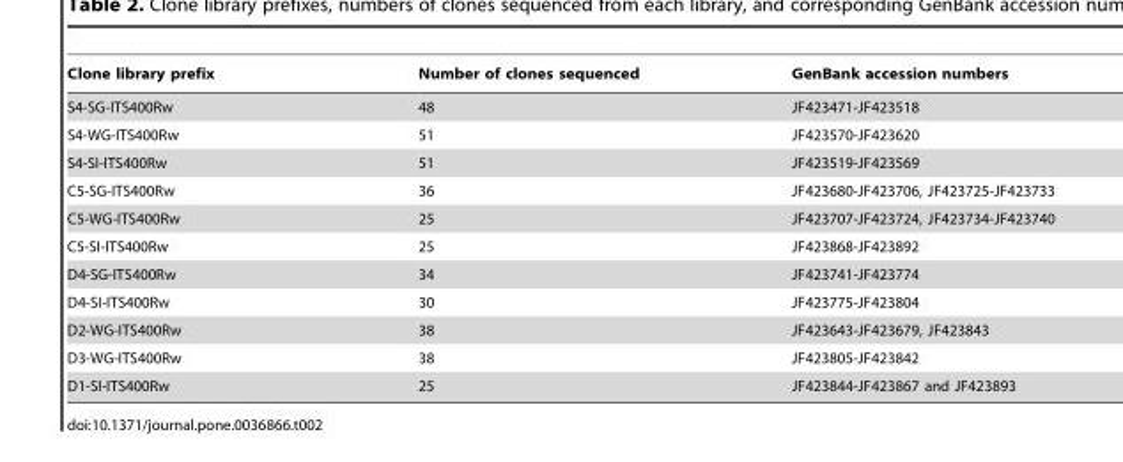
<table><thead><tr><td>Clone library prefix</td><td>Number of clones sequenced</td><td>GenBank accession numbers</td></tr></thead><tbody><tr><td>S4-SG-ITS400Rw</td><td>48</td><td>JF423471-JF423518</td></tr><tr><td>S4-WG-ITS400Rw</td><td>51</td><td>JF423570-JF423620</td></tr><tr><td>S4-SI-ITS400Rw</td><td>51</td><td>JF423519-JF423569</td></tr><tr><td>C5-SG-ITS400Rw</td><td>36</td><td>JF423680-JF423706, JF423725-JF423733</td></tr><tr><td>C5-WG-ITS400Rw</td><td>25</td><td>JF423707-JF423724, JF423734-JF423740</td></tr><tr><td>C5-SI-ITS400Rw</td><td>25</td><td>JF423868-JF423892</td></tr><tr><td>D4-SG-ITS400Rw</td><td>34</td><td>JF423741-JF423774</td></tr><tr><td>D4-SI-ITS400Rw</td><td>30</td><td>JF423775-JF423804</td></tr><tr><td>D2-WG-ITS400Rw</td><td>38</td><td>JF423643-JF423679, JF423843</td></tr><tr><td>D3-WG-ITS400Rw</td><td>38</td><td>JF423805-JF423842</td></tr><tr><td>D1-SI-ITS400Rw</td><td>25</td><td>JF423844-JF423867 and JF423893</td></tr></tbody></table>